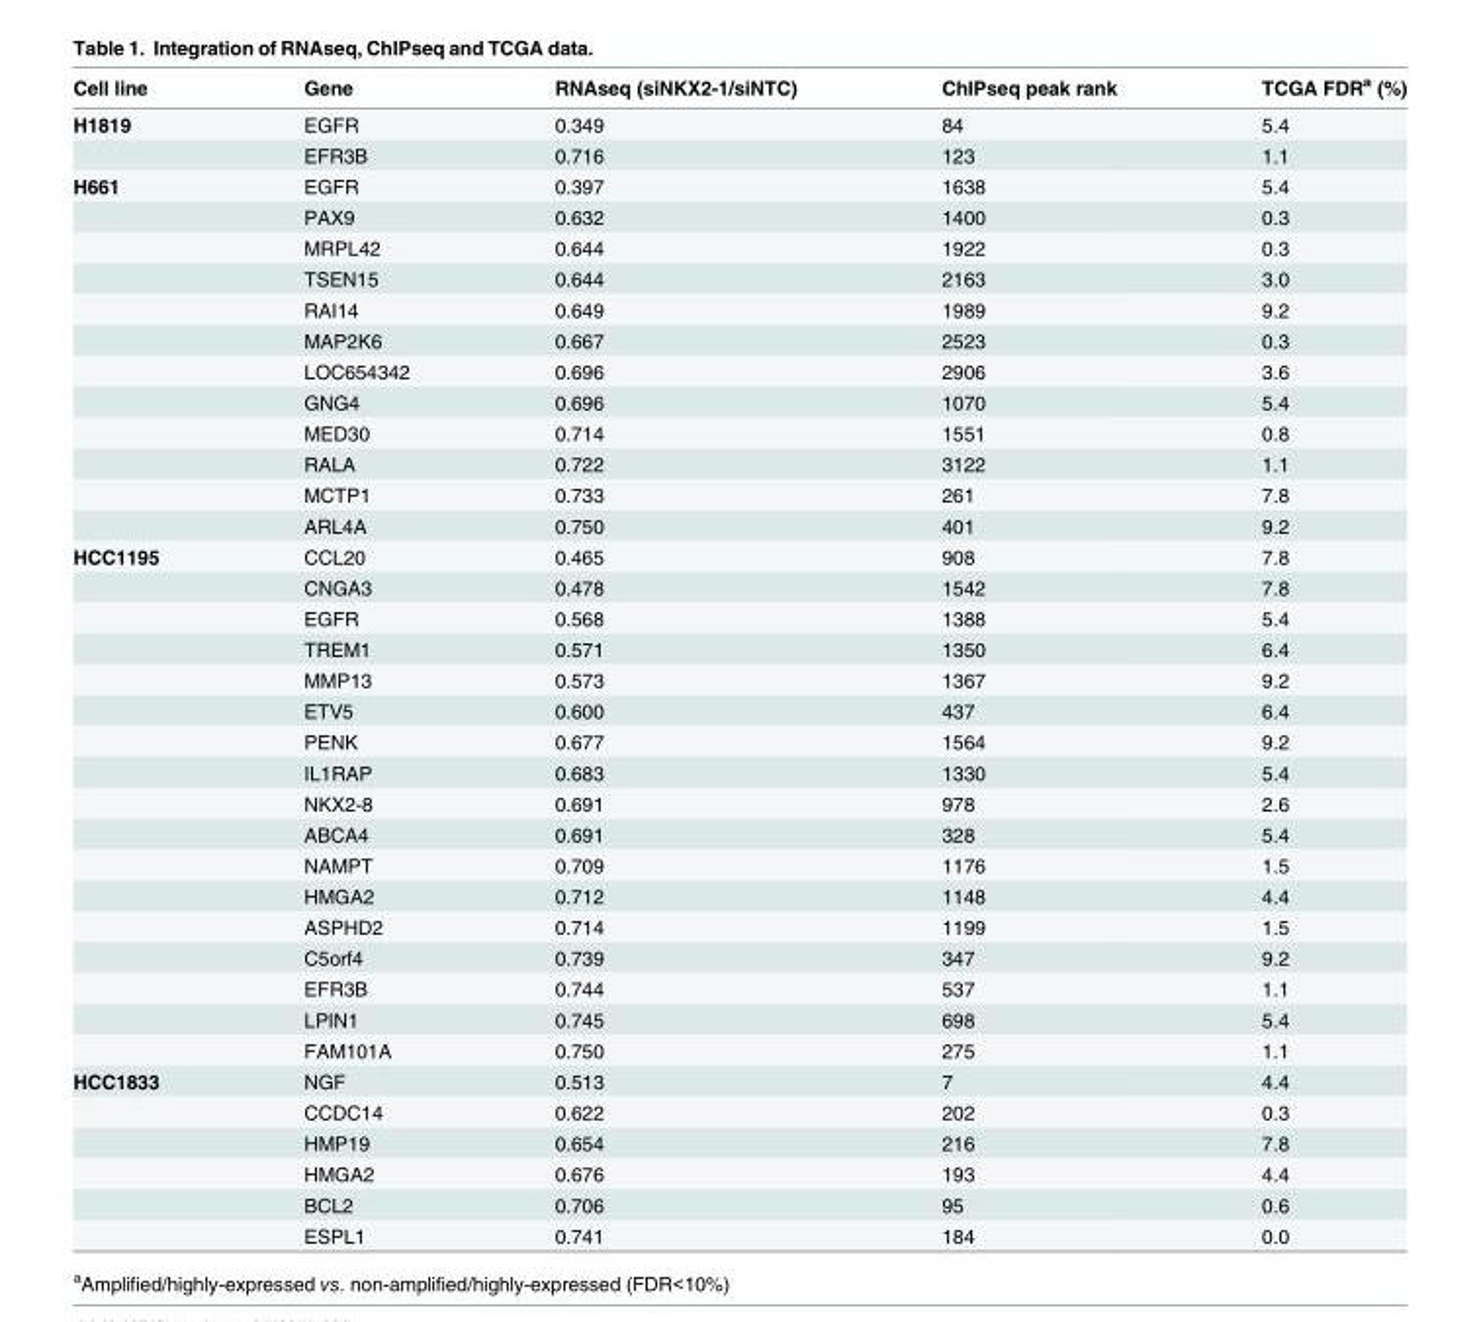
<table><thead><tr><td>Cell line</td><td>Gene</td><td>RNAseq (siNKX2-1/siNTC)</td><td>ChIPseq peak rank</td><td>TCGA FDR<sup>a</sup> (%)</td></tr></thead><tbody><tr><td rowspan="2">H1819</td><td>EGFR</td><td>0.349</td><td>84</td><td>5.4</td></tr><tr><td>EFR3B</td><td>0.716</td><td>123</td><td>1.1</td></tr><tr><td rowspan="12">H661</td><td>EGFR</td><td>0.397</td><td>1638</td><td>5.4</td></tr><tr><td>PAX9</td><td>0.632</td><td>1400</td><td>0.3</td></tr><tr><td>MRPL42</td><td>0.644</td><td>1922</td><td>0.3</td></tr><tr><td>TSEN15</td><td>0.644</td><td>2163</td><td>3.0</td></tr><tr><td>RAI14</td><td>0.649</td><td>1989</td><td>9.2</td></tr><tr><td>MAP2K6</td><td>0.667</td><td>2523</td><td>0.3</td></tr><tr><td>LOC654342</td><td>0.696</td><td>2906</td><td>3.6</td></tr><tr><td>GNG4</td><td>0.696</td><td>1070</td><td>5.4</td></tr><tr><td>MED30</td><td>0.714</td><td>1551</td><td>0.8</td></tr><tr><td>RALA</td><td>0.722</td><td>3122</td><td>1.1</td></tr><tr><td>MCTP1</td><td>0.733</td><td>261</td><td>7.8</td></tr><tr><td>ARL4A</td><td>0.750</td><td>401</td><td>9.2</td></tr><tr><td rowspan="17">HCC1195</td><td>CCL20</td><td>0.465</td><td>908</td><td>7.8</td></tr><tr><td>CNGA3</td><td>0.478</td><td>1542</td><td>7.8</td></tr><tr><td>EGFR</td><td>0.568</td><td>1388</td><td>5.4</td></tr><tr><td>TREM1</td><td>0.571</td><td>1350</td><td>6.4</td></tr><tr><td>MMP13</td><td>0.573</td><td>1367</td><td>9.2</td></tr><tr><td>ETV5</td><td>0.600</td><td>437</td><td>6.4</td></tr><tr><td>PENK</td><td>0.677</td><td>1564</td><td>9.2</td></tr><tr><td>IL1RAP</td><td>0.683</td><td>1330</td><td>5.4</td></tr><tr><td>NKX2-8</td><td>0.691</td><td>978</td><td>2.6</td></tr><tr><td>ABCA4</td><td>0.691</td><td>328</td><td>5.4</td></tr><tr><td>NAMPT</td><td>0.709</td><td>1176</td><td>1.5</td></tr><tr><td>HMGA2</td><td>0.712</td><td>1148</td><td>4.4</td></tr><tr><td>ASPHD2</td><td>0.714</td><td>1199</td><td>1.5</td></tr><tr><td>C5orf4</td><td>0.739</td><td>347</td><td>9.2</td></tr><tr><td>EFR3B</td><td>0.744</td><td>537</td><td>1.1</td></tr><tr><td>LPIN1</td><td>0.745</td><td>698</td><td>5.4</td></tr><tr><td>FAM101A</td><td>0.750</td><td>275</td><td>1.1</td></tr><tr><td rowspan="6">HCC1833</td><td>NGF</td><td>0.513</td><td>7</td><td>4.4</td></tr><tr><td>CCDC14</td><td>0.622</td><td>202</td><td>0.3</td></tr><tr><td>HMP19</td><td>0.654</td><td>216</td><td>7.8</td></tr><tr><td>HMGA2</td><td>0.676</td><td>193</td><td>4.4</td></tr><tr><td>BCL2</td><td>0.706</td><td>95</td><td>0.6</td></tr><tr><td>ESPL1</td><td>0.741</td><td>184</td><td>0.0</td></tr></tbody></table>